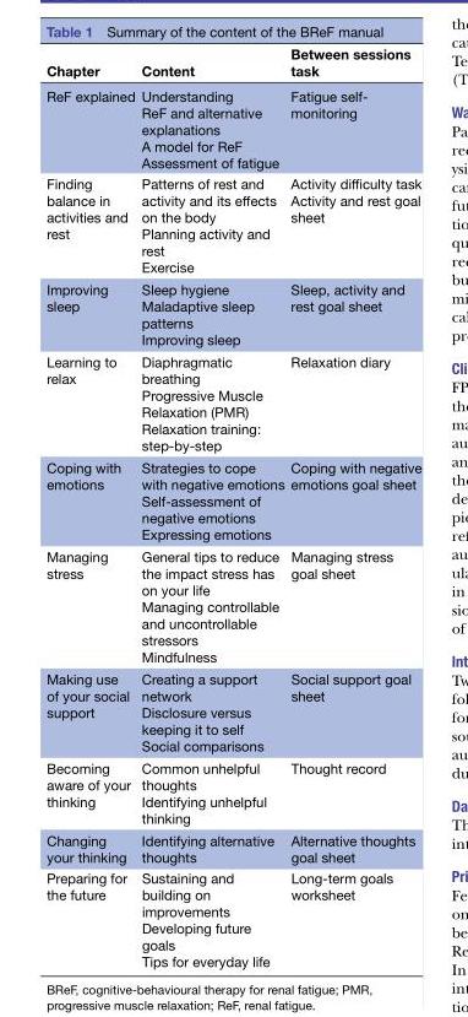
<table><thead><tr><td>Chapter</td><td>Content</td><td>Between sessions task</td></tr></thead><tbody><tr><td>ReF explained</td><td>Understanding ReF and alternative explanations A model for ReF Assessment of fatigue</td><td>Fatigue self- monitoring</td></tr><tr><td>Finding balance in activities and rest</td><td>Patterns of rest and activity and its effects on the body Planning activity and rest Exercise</td><td>Activity difficulty task Activity and rest goal sheet</td></tr><tr><td>Improving sleep</td><td>Sleep hygiene Maladaptive sleep patterns Improving sleep</td><td>Sleep, activity and rest goal sheet</td></tr><tr><td>Learning to relax</td><td>Diaphragmatic breathing Progressive Muscle Relaxation (PMR) Relaxation training: step-by-step</td><td>Relaxation diary</td></tr><tr><td>Coping with emotions</td><td>Strategies to cope with negative emotions Self-assessment of negative emotions Expressing emotions</td><td>Coping with negative emotions goal sheet</td></tr><tr><td>Managing stress</td><td>General tips to reduce the impact stress has on your life Managing controllable and uncontrollable stressors Mindfulness</td><td>Managing stress goal sheet</td></tr><tr><td>Making use of your social support</td><td>Creating a support network Disclosure versus keeping it to self Social comparisons</td><td>Social support goal sheet</td></tr><tr><td>Becoming aware of your thinking</td><td>Common unhelpful thoughts Identifying unhelpful thinking</td><td>Thought record</td></tr><tr><td>Changing your thinking</td><td>Identifying alternative thoughts</td><td>Alternative thoughts goal sheet</td></tr><tr><td>Preparing for the future</td><td>Sustaining and building on improvements Developing future goals Tips for everyday life</td><td>Long-term goals worksheet</td></tr></tbody></table>